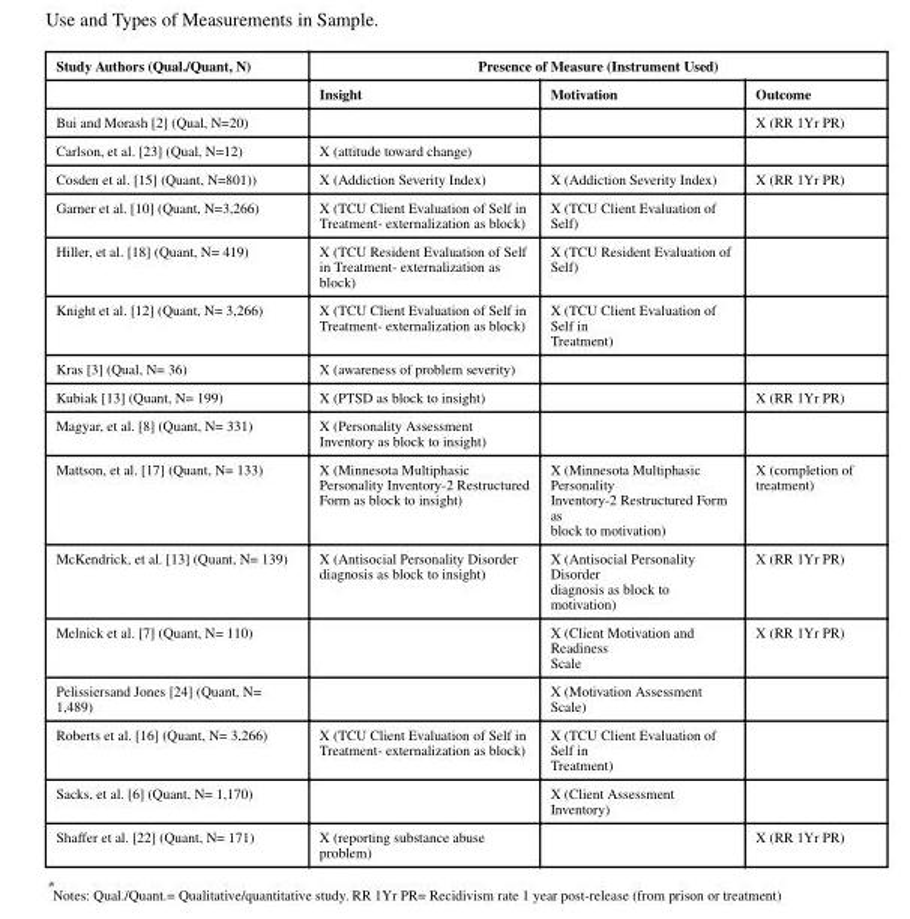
<table><thead><tr><td rowspan="2">Study Authors (Qual./Quant, N)</td><td colspan="3">Presence of Measure (Instrument Used)</td></tr><tr><td>Insight</td><td>Motivation</td><td>Outcome</td></tr></thead><tbody><tr><td>Bui and Morash [2] (Qual, N=20)</td><td></td><td></td><td>X (RR 1Yr PR)</td></tr><tr><td>Carlson, et al. [23] (Qual, N=12)</td><td>X (attitude toward change)</td><td></td><td></td></tr><tr><td>Cosden et al. [15] (Quant, N=801))</td><td>X (Addiction Severity Index)</td><td>X (Addiction Severity Index)</td><td>X (RR 1Yr PR)</td></tr><tr><td>Garner et al. [10] (Quant, N=3,266)</td><td>X (TCU Client Evaluation of Self in Treatment- externalization as block)</td><td>X (TCU Client Evaluation of Self)</td><td></td></tr><tr><td>Hiller, et al. [18] (Quant, N= 419)</td><td>X (TCU Resident Evaluation of Self in Treatment- externalization as block)</td><td>X (TCU Resident Evaluation of Self)</td><td></td></tr><tr><td>Knight et al. [12] (Quant, N= 3,266)</td><td>X (TCU Client Evaluation of Self in Treatment- externalization as block)</td><td>X (TCU Client Evaluation of Self in Treatment)</td><td></td></tr><tr><td>Kras [3] (Qual, N= 36)</td><td>X (awareness of problem severity)</td><td></td><td></td></tr><tr><td>Kubiak [13] (Quant, N= 199)</td><td>X (PTSD as block to insight)</td><td></td><td>X (RR 1Yr PR)</td></tr><tr><td>Magyar, et al. [8] (Quant, N= 331)</td><td>X (Personality Assessment Inventory as block to insight)</td><td></td><td></td></tr><tr><td>Mattson, et al. [17] (Quant, N= 133)</td><td>X (Minnesota Multiphasic Personality Inventory-2 Restructured Form as block to insight)</td><td>X (Minnesota Multiphasic Personality Inventory-2 Restructured Form as block to motivation)</td><td>X (completion of treatment)</td></tr><tr><td>McKendrick, et al. [13] (Quant, N= 139)</td><td>X (Antisocial Personality Disorder diagnosis as block to insight)</td><td>X (Antisocial Personality Disorder diagnosis as block to motivation)</td><td>X (RR 1Yr PR)</td></tr><tr><td>Melnick et al. [7] (Quant, N= 110)</td><td></td><td>X (Client Motivation and Readiness Scale</td><td>X (RR 1Yr PR)</td></tr><tr><td>Pelissiersand Jones [24] (Quant, N= 1,489)</td><td></td><td>X (Motivation Assessment Scale)</td><td></td></tr><tr><td>Roberts et al. [16] (Quant, N= 3,266)</td><td>X (TCU Client Evaluation of Self in Treatment- externalization as block)</td><td>X (TCU Client Evaluation of Self in Treatment)</td><td></td></tr><tr><td>Sacks, et al. [6] (Quant, N= 1,170)</td><td></td><td>X (Client Assessment Inventory)</td><td></td></tr><tr><td>Shaffer et al. [22] (Quant, N= 171)</td><td>X (reporting substance abuse problem)</td><td></td><td>X (RR 1Yr PR)</td></tr></tbody></table>